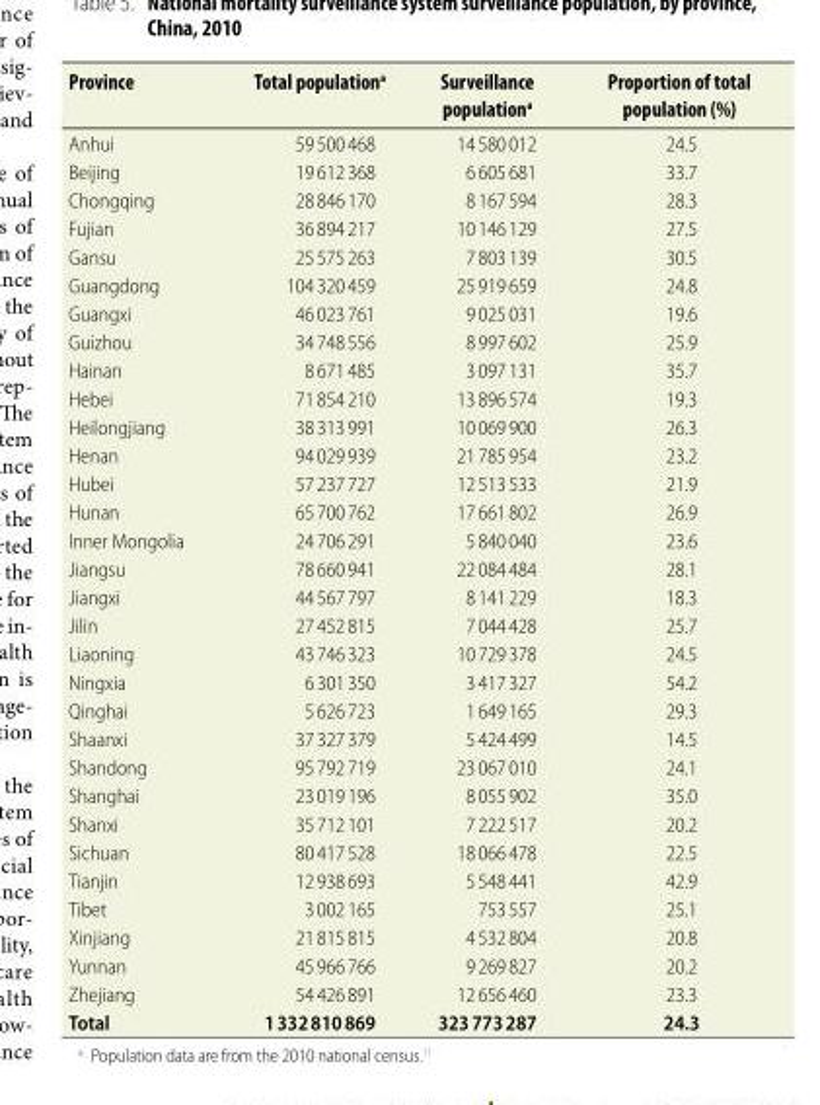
<table><thead><tr><td>Province</td><td>Total population<sup>a</sup></td><td>Surveillance population<sup>a</sup></td><td>Proportion of total population (%)</td></tr></thead><tbody><tr><td>Anhui</td><td>59 500 468</td><td>14 580 012</td><td>24.5</td></tr><tr><td>Beijing</td><td>19 612 368</td><td>6 605 681</td><td>33.7</td></tr><tr><td>Chongqing</td><td>28 846 170</td><td>8 167 594</td><td>28.3</td></tr><tr><td>Fujian</td><td>36 894 217</td><td>10 146 129</td><td>27.5</td></tr><tr><td>Gansu</td><td>25 575 263</td><td>7 803 139</td><td>30.5</td></tr><tr><td>Guangdong</td><td>104 320 459</td><td>25 919 659</td><td>24.8</td></tr><tr><td>Guangxi</td><td>46 023 761</td><td>9 025 031</td><td>19.6</td></tr><tr><td>Guizhou</td><td>34 748 556</td><td>8 997 602</td><td>25.9</td></tr><tr><td>Hainan</td><td>8 671 485</td><td>3 097 131</td><td>35.7</td></tr><tr><td>Hebei</td><td>71 854 210</td><td>13 896 574</td><td>19.3</td></tr><tr><td>Heilongjiang</td><td>38 313 991</td><td>10 069 900</td><td>26.3</td></tr><tr><td>Henan</td><td>94 029 939</td><td>21 785 954</td><td>23.2</td></tr><tr><td>Hubei</td><td>57 237 727</td><td>12 513 533</td><td>21.9</td></tr><tr><td>Hunan</td><td>65 700 762</td><td>17 661 802</td><td>26.9</td></tr><tr><td>Inner Mongolia</td><td>24 706 291</td><td>5 840 040</td><td>23.6</td></tr><tr><td>Jiangsu</td><td>78 660 941</td><td>22 084 484</td><td>28.1</td></tr><tr><td>Jiangxi</td><td>44 567 797</td><td>8 141 229</td><td>18.3</td></tr><tr><td>Jilin</td><td>27 452 815</td><td>7 044 428</td><td>25.7</td></tr><tr><td>Liaoning</td><td>43 746 323</td><td>10 729 378</td><td>24.5</td></tr><tr><td>Ningxia</td><td>6 301 350</td><td>3 417 327</td><td>54.2</td></tr><tr><td>Qinghai</td><td>5 626 723</td><td>1 649 165</td><td>29.3</td></tr><tr><td>Shaanxi</td><td>37 327 379</td><td>5 424 499</td><td>14.5</td></tr><tr><td>Shandong</td><td>95 792 719</td><td>23 067 010</td><td>24.1</td></tr><tr><td>Shanghai</td><td>23 019 196</td><td>8 055 902</td><td>35.0</td></tr><tr><td>Shanxi</td><td>35 712 101</td><td>7 222 517</td><td>20.2</td></tr><tr><td>Sichuan</td><td>80 417 528</td><td>18 066 478</td><td>22.5</td></tr><tr><td>Tianjin</td><td>12 938 693</td><td>5 548 441</td><td>42.9</td></tr><tr><td>Tibet</td><td>3 002 165</td><td>753 557</td><td>25.1</td></tr><tr><td>Xinjiang</td><td>21 815 815</td><td>4 532 804</td><td>20.8</td></tr><tr><td>Yunnan</td><td>45 966 766</td><td>9 269 827</td><td>20.2</td></tr><tr><td>Zhejiang</td><td>54 426 891</td><td>12 656 460</td><td>23.3</td></tr><tr><td>Total</td><td>1 332 810 869</td><td>323 773 287</td><td>24.3</td></tr></tbody></table>